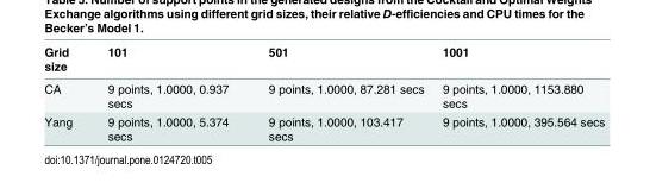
<table><thead><tr><td>Grid size</td><td>101</td><td>501</td><td>1001</td></tr></thead><tbody><tr><td>CA</td><td>9 points, 1.0000, 0.937 secs</td><td>9 points, 1.0000, 87.281 secs</td><td>9 points, 1.0000, 1153.880 secs</td></tr><tr><td>Yang</td><td>9 points, 1.0000, 5.374 secs</td><td>9 points, 1.0000, 103.417 secs</td><td>9 points, 1.0000, 395.564 secs</td></tr></tbody></table>